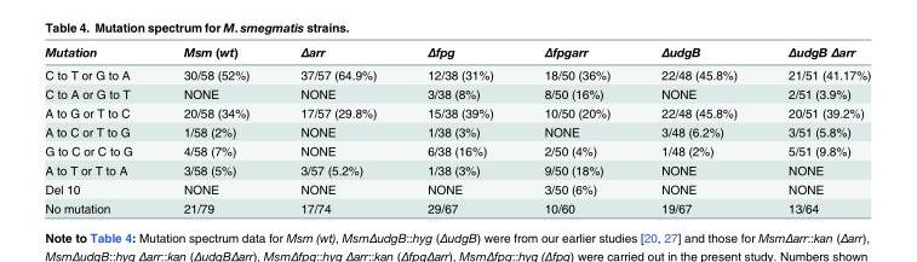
<table><thead><tr><td>Mutation</td><td>Msm (wt)</td><td>Δarr</td><td>Δfpg</td><td>Δfpgarr</td><td>ΔudgB</td><td>ΔudgB Δarr</td></tr></thead><tbody><tr><td>C to T or G to A</td><td>30/58 (52%)</td><td>37/57 (64.9%)</td><td>12/38 (31%)</td><td>18/50 (36%)</td><td>22/48 (45.8%)</td><td>21/51 (41.17%)</td></tr><tr><td>C to A or G to T</td><td>NONE</td><td>NONE</td><td>3/38 (8%)</td><td>8/50 (16%)</td><td>NONE</td><td>2/51 (3.9%)</td></tr><tr><td>A to G or T to C</td><td>20/58 (34%)</td><td>17/57 (29.8%)</td><td>15/38 (39%)</td><td>10/50 (20%)</td><td>22/48 (45.8%)</td><td>20/51 (39.2%)</td></tr><tr><td>A to C or T to G</td><td>1/58 (2%)</td><td>NONE</td><td>1/38 (3%)</td><td>NONE</td><td>3/48 (6.2%)</td><td>3/51 (5.8%)</td></tr><tr><td>G to C or C to G</td><td>4/58 (7%)</td><td>NONE</td><td>6/38 (16%)</td><td>2/50 (4%)</td><td>1/48 (2%)</td><td>5/51 (9.8%)</td></tr><tr><td>A to T or T to A</td><td>3/58 (5%)</td><td>3/57 (5.2%)</td><td>1/38 (3%)</td><td>9/50 (18%)</td><td>NONE</td><td>NONE</td></tr><tr><td>Del 10</td><td>NONE</td><td>NONE</td><td>NONE</td><td>3/50 (6%)</td><td>NONE</td><td>NONE</td></tr><tr><td>No mutation</td><td>21/79</td><td>17/74</td><td>29/67</td><td>10/60</td><td>19/67</td><td>13/64</td></tr></tbody></table>